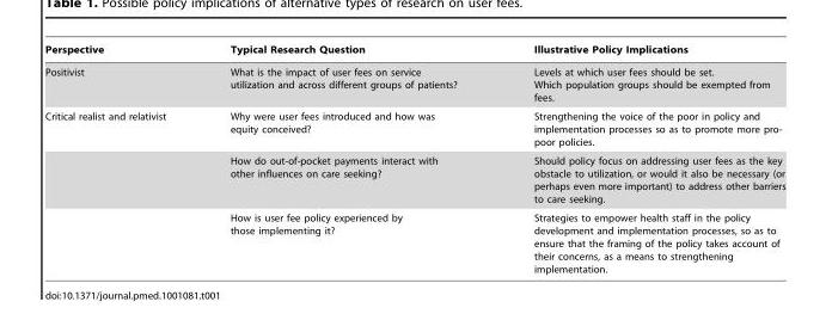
<table><thead><tr><td>Perspective</td><td>Typical Research Question</td><td>Illustrative Policy Implications</td></tr></thead><tbody><tr><td>Positivist</td><td>What is the impact of user fees on service utilization and across different groups of patients?</td><td>Levels at which user fees should be set. Which population groups should be exempted from fees.</td></tr><tr><td rowspan="3">Critical realist and relativist</td><td>Why were user fees introduced and how was equity conceived?</td><td>Strengthening the voice of the poor in policy and implementation processes so as to promote more pro- poor policies.</td></tr><tr><td>How do out-of-pocket payments interact with other influences on care seeking?</td><td>Should policy focus on addressing user fees as the key obstacle to utilization, or would it also be necessary (or perhaps even more important) to address other barriers to care seeking.</td></tr><tr><td>How is user fee policy experienced by those implementing it?</td><td>Strategies to empower health staff in the policy development and implementation processes, so as to ensure that the framing of the policy takes account of their concerns, as a means to strengthening implementation.</td></tr></tbody></table>